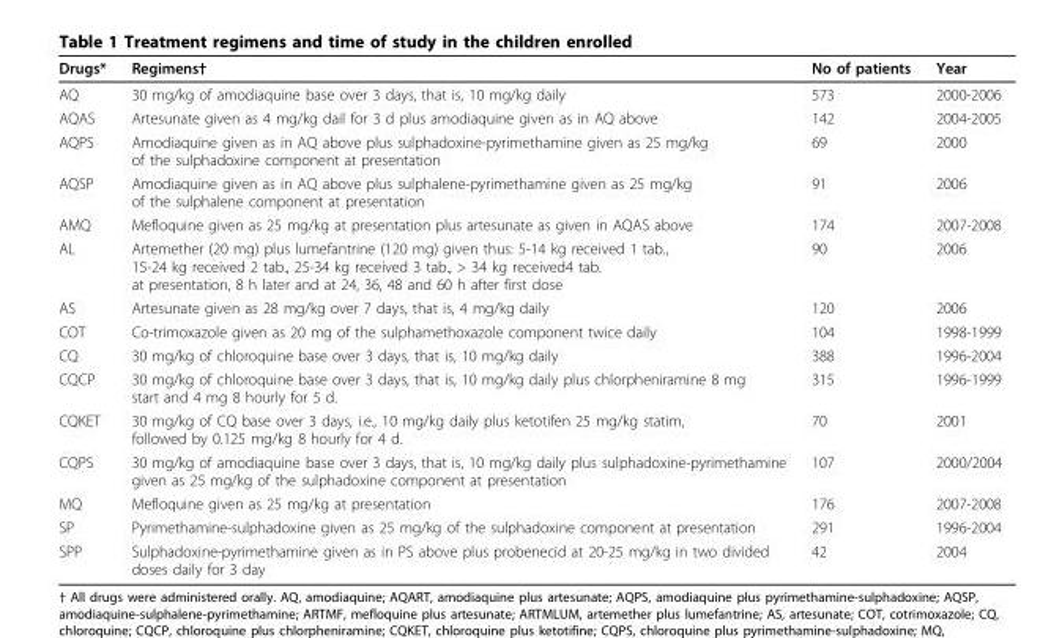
<table><thead><tr><td>Drugs*</td><td>Regimens†</td><td>No of patients</td><td>Year</td></tr></thead><tbody><tr><td>AQ</td><td>30 mg/kg of amodiaquine base over 3 days, that is, 10 mg/kg daily</td><td>573</td><td>2000-2006</td></tr><tr><td>AQAS</td><td>Artesunate given as 4 mg/kg dail for 3 d plus amodiaquine given as in AQ above</td><td>142</td><td>2004-2005</td></tr><tr><td>AQPS</td><td>Amodiaquine given as in AQ above plus sulphadoxine-pyrimethamine given as 25 mg/kg of the sulphadoxine component at presentation</td><td>69</td><td>2000</td></tr><tr><td>AQSP</td><td>Amodiaquine given as in AQ above plus sulphalene-pyrimethamine given as 25 mg/kg of the sulphalene component at presentation</td><td>91</td><td>2006</td></tr><tr><td>AMQ</td><td>Mefloquine given as 25 mg/kg at presentation plus artesunate as given in AQAS above</td><td>174</td><td>2007-2008</td></tr><tr><td>AL</td><td>Artemether (20 mg) plus lumefantrine (120 mg) given thus: 5-14 kg received 1 tab., 15-24 kg received 2 tab., 25-34 kg received 3 tab., &gt; 34 kg received4 tab. at presentation, 8 h later and at 24, 36, 48 and 60 h after first dose</td><td>90</td><td>2006</td></tr><tr><td>AS</td><td>Artesunate given as 28 mg/kg over 7 days, that is, 4 mg/kg daily</td><td>120</td><td>2006</td></tr><tr><td>COT</td><td>Co-trimoxazole given as 20 mg of the sulphamethoxazole component twice daily</td><td>104</td><td>1998-1999</td></tr><tr><td>CQ</td><td>30 mg/kg of chloroquine base over 3 days, that is, 10 mg/kg daily</td><td>388</td><td>1996-2004</td></tr><tr><td>CQCP</td><td>30 mg/kg of chloroquine base over 3 days, that is, 10 mg/kg daily plus chlorpheniramine 8 mg start and 4 mg 8 hourly for 5 d.</td><td>315</td><td>1996-1999</td></tr><tr><td>CQKET</td><td>30 mg/kg of CQ base over 3 days, i.e., 10 mg/kg daily plus ketotifen 25 mg/kg statim, followed by 0.125 mg/kg 8 hourly for 4 d.</td><td>70</td><td>2001</td></tr><tr><td>CQPS</td><td>30 mg/kg of amodiaquine base over 3 days, that is, 10 mg/kg daily plus sulphadoxine-pyrimethamine given as 25 mg/kg of the sulphadoxine component at presentation</td><td>107</td><td>2000/2004</td></tr><tr><td>MQ</td><td>Mefloquine given as 25 mg/kg at presentation</td><td>176</td><td>2007-2008</td></tr><tr><td>SP</td><td>Pyrimethamine-sulphadoxine given as 25 mg/kg of the sulphadoxine component at presentation</td><td>291</td><td>1996-2004</td></tr><tr><td>SPP</td><td>Sulphadoxine-pyrimethamine given as in PS above plus probenecid at 20-25 mg/kg in two divided doses daily for 3 day</td><td>42</td><td>2004</td></tr></tbody></table>